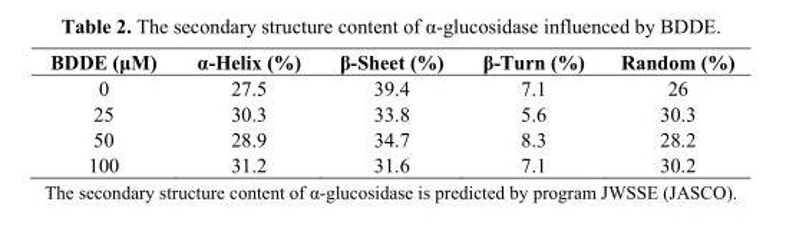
<table><thead><tr><td>BDDE (μM)</td><td>α-Helix (%)</td><td>β-Sheet (%)</td><td>β-Turn (%)</td><td>Random (%)</td></tr></thead><tbody><tr><td>0</td><td>27.5</td><td>39.4</td><td>7.1</td><td>26</td></tr><tr><td>25</td><td>30.3</td><td>33.8</td><td>5.6</td><td>30.3</td></tr><tr><td>50</td><td>28.9</td><td>34.7</td><td>8.3</td><td>28.2</td></tr><tr><td>100</td><td>31.2</td><td>31.6</td><td>7.1</td><td>30.2</td></tr></tbody></table>